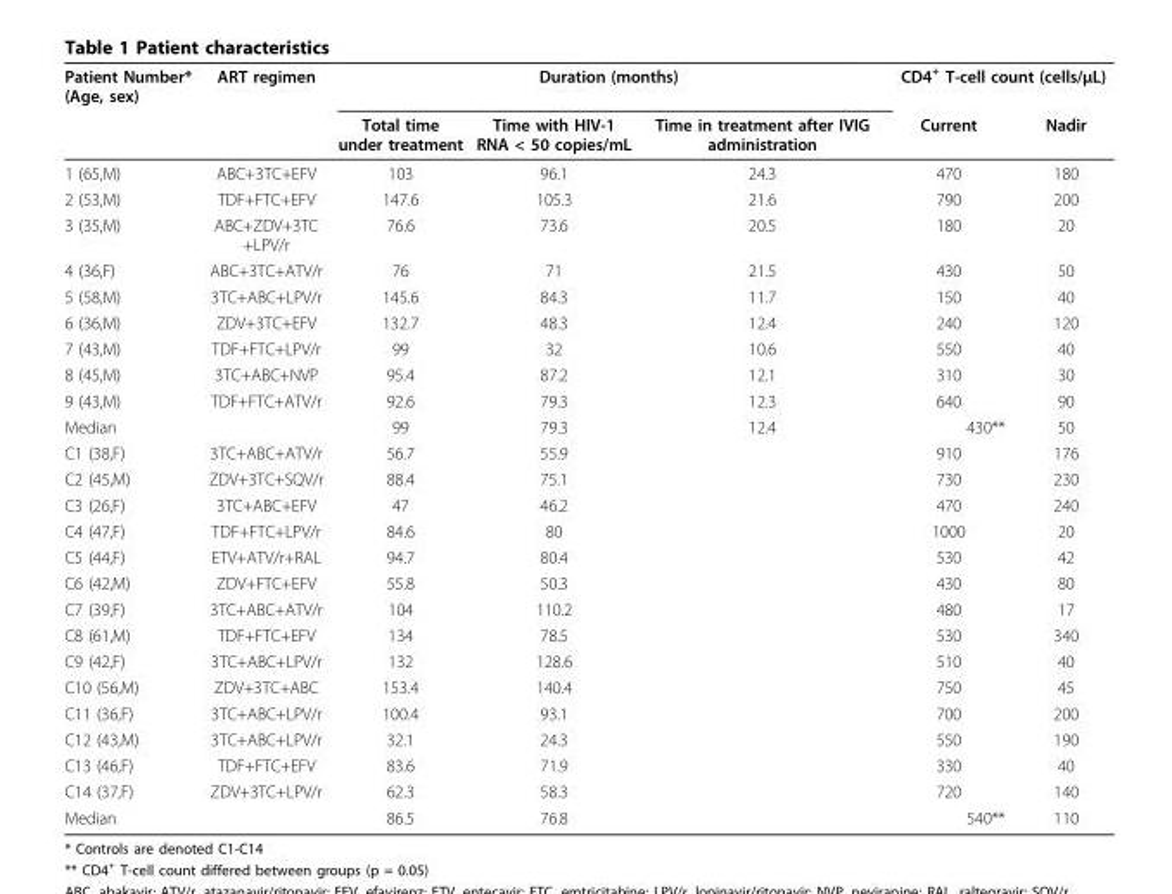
<table><thead><tr><td rowspan="2">Patient Number* (Age, sex)</td><td rowspan="2">ART regimen</td><td colspan="3">Duration (months)</td><td colspan="2">CD4<sup>+</sup> T-cell count (cells/μL)</td></tr><tr><td>Total time under treatment</td><td>Time with HIV-1 RNA &lt; 50 copies/mL</td><td>Time in treatment after IVIG administration</td><td>Current</td><td>Nadir</td></tr></thead><tbody><tr><td>1 (65,M)</td><td>ABC+3TC+EFV</td><td>103</td><td>96.1</td><td>24.3</td><td>470</td><td>180</td></tr><tr><td>2 (53,M)</td><td>TDF+FTC+EFV</td><td>147.6</td><td>105.3</td><td>21.6</td><td>790</td><td>200</td></tr><tr><td>3 (35,M)</td><td>ABC+ZDV+3TC +LPV/r</td><td>76.6</td><td>73.6</td><td>20.5</td><td>180</td><td>20</td></tr><tr><td>4 (36,F)</td><td>ABC+3TC+ATV/r</td><td>76</td><td>71</td><td>21.5</td><td>430</td><td>50</td></tr><tr><td>5 (58,M)</td><td>3TC+ABC+LPV/r</td><td>145.6</td><td>84.3</td><td>11.7</td><td>150</td><td>40</td></tr><tr><td>6 (36,M)</td><td>ZDV+3TC+EFV</td><td>132.7</td><td>48.3</td><td>12.4</td><td>240</td><td>120</td></tr><tr><td>7 (43,M)</td><td>TDF+FTC+LPV/r</td><td>99</td><td>32</td><td>10.6</td><td>550</td><td>40</td></tr><tr><td>8 (45,M)</td><td>3TC+ABC+NVP</td><td>95.4</td><td>87.2</td><td>12.1</td><td>310</td><td>30</td></tr><tr><td>9 (43,M)</td><td>TDF+FTC+ATV/r</td><td>92.6</td><td>79.3</td><td>12.3</td><td>640</td><td>90</td></tr><tr><td>Median</td><td></td><td>99</td><td>79.3</td><td>12.4</td><td>430**</td><td>50</td></tr><tr><td>C1 (38,F)</td><td>3TC+ABC+ATV/r</td><td>56.7</td><td>55.9</td><td></td><td>910</td><td>176</td></tr><tr><td>C2 (45,M)</td><td>ZDV+3TC+SQV/r</td><td>88.4</td><td>75.1</td><td></td><td>730</td><td>230</td></tr><tr><td>C3 (26,F)</td><td>3TC+ABC+EFV</td><td>47</td><td>46.2</td><td></td><td>470</td><td>240</td></tr><tr><td>C4 (47,F)</td><td>TDF+FTC+LPV/r</td><td>84.6</td><td>80</td><td></td><td>1000</td><td>20</td></tr><tr><td>C5 (44,F)</td><td>ETV+ATV/r+RAL</td><td>94.7</td><td>80.4</td><td></td><td>530</td><td>42</td></tr><tr><td>C6 (42,M)</td><td>ZDV+FTC+EFV</td><td>55.8</td><td>50.3</td><td></td><td>430</td><td>80</td></tr><tr><td>C7 (39,F)</td><td>3TC+ABC+ATV/r</td><td>104</td><td>110.2</td><td></td><td>480</td><td>17</td></tr><tr><td>C8 (61,M)</td><td>TDF+FTC+EFV</td><td>134</td><td>78.5</td><td></td><td>530</td><td>340</td></tr><tr><td>C9 (42,F)</td><td>3TC+ABC+LPV/r</td><td>132</td><td>128.6</td><td></td><td>510</td><td>40</td></tr><tr><td>C10 (56,M)</td><td>ZDV+3TC+ABC</td><td>153.4</td><td>140.4</td><td></td><td>750</td><td>45</td></tr><tr><td>C11 (36,F)</td><td>3TC+ABC+LPV/r</td><td>100.4</td><td>93.1</td><td></td><td>700</td><td>200</td></tr><tr><td>C12 (43,M)</td><td>3TC+ABC+LPV/r</td><td>32.1</td><td>24.3</td><td></td><td>550</td><td>190</td></tr><tr><td>C13 (46,F)</td><td>TDF+FTC+EFV</td><td>83.6</td><td>71.9</td><td></td><td>330</td><td>40</td></tr><tr><td>C14 (37,F)</td><td>ZDV+3TC+LPV/r</td><td>62.3</td><td>58.3</td><td></td><td>720</td><td>140</td></tr><tr><td>Median</td><td></td><td>86.5</td><td>76.8</td><td></td><td>540**</td><td>110</td></tr></tbody></table>